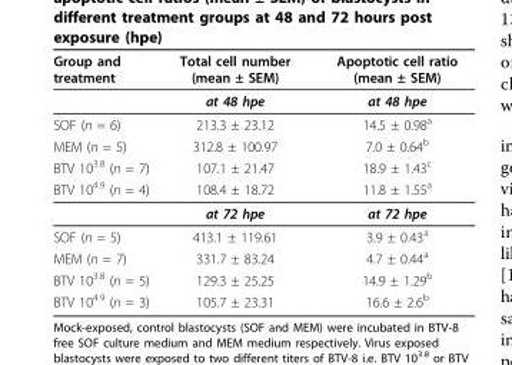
<table><thead><tr><td>Group and treatment</td><td>Total cell number (mean ± SEM)</td><td>Apoptotic cell ratio (mean ± SEM)</td></tr></thead><tbody><tr><td></td><td>at 48 hpe</td><td>at 48 hpe</td></tr><tr><td>SOF (n = 6)</td><td>213.3 ± 23.12</td><td>14.5 ± 0.98<sup>a</sup></td></tr><tr><td>MEM (n = 5)</td><td>312.8 ± 100.97</td><td>7.0 ± 0.64<sup>b</sup></td></tr><tr><td>BTV 10<sup>3.8</sup> (n = 7)</td><td>107.1 ± 21.47</td><td>18.9 ± 1.43<sup>c</sup></td></tr><tr><td rowspan="2">BTV 10<sup>4.9</sup> (n = 4)</td><td>108.4 ± 18.72</td><td>11.8 ± 1.55<sup>a</sup></td></tr><tr><td>at 72 hpe</td><td>at 72 hpe</td></tr><tr><td>SOF (n = 5)</td><td>413.1 ± 119.61</td><td>3.9 ± 0.43<sup>a</sup></td></tr><tr><td>MEM (n = 7)</td><td>331.7 ± 83.24</td><td>4.7 ± 0.44<sup>a</sup></td></tr><tr><td>BTV 10<sup>3.8</sup> (n = 5)</td><td>129.3 ± 25.25</td><td>14.9 ± 1.29<sup>b</sup></td></tr><tr><td>BTV 10<sup>4.9</sup> (n = 3)</td><td>105.7 ± 23.31</td><td>16.6 ± 2.6<sup>b</sup></td></tr></tbody></table>